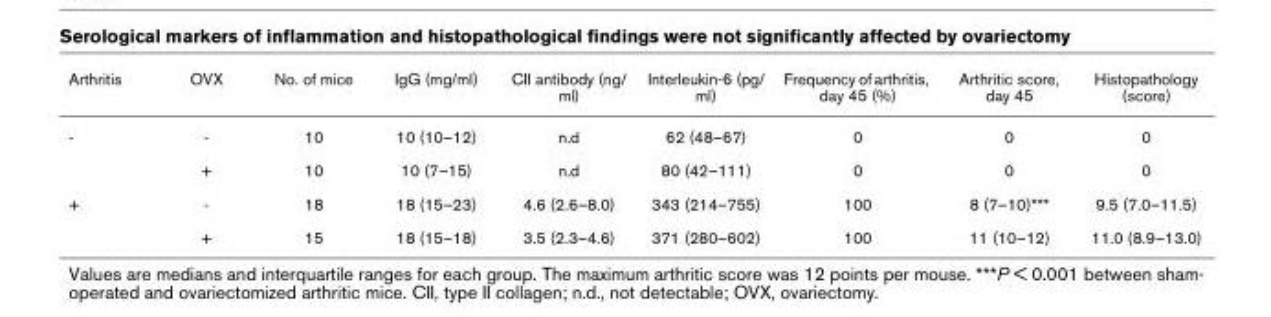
<table><thead><tr><td>Arthritis</td><td>OVX</td><td>No. of mice</td><td>IgG (mg/ml)</td><td>CII antibody (ng/ ml)</td><td>Interleukin-6 (pg/ ml)</td><td>Frequency of arthritis, day 45 (%)</td><td>Arthritic score, day 45</td><td>Histopathology (score)</td></tr></thead><tbody><tr><td rowspan="2">-</td><td>-</td><td>10</td><td>10 (10–12)</td><td>n.d</td><td>62 (48–67)</td><td>0</td><td>0</td><td>0</td></tr><tr><td>+</td><td>10</td><td>10 (7–15)</td><td>n.d</td><td>80 (42–111)</td><td>0</td><td>0</td><td>0</td></tr><tr><td rowspan="2">+</td><td>-</td><td>18</td><td>18 (15–23)</td><td>4.6 (2.6–8.0)</td><td>343 (214–755)</td><td>100</td><td>8 (7–10)***</td><td>9.5 (7.0–11.5)</td></tr><tr><td>+</td><td>15</td><td>18 (15–18)</td><td>3.5 (2.3–4.6)</td><td>371 (280–602)</td><td>100</td><td>11 (10–12)</td><td>11.0 (8.9–13.0)</td></tr></tbody></table>